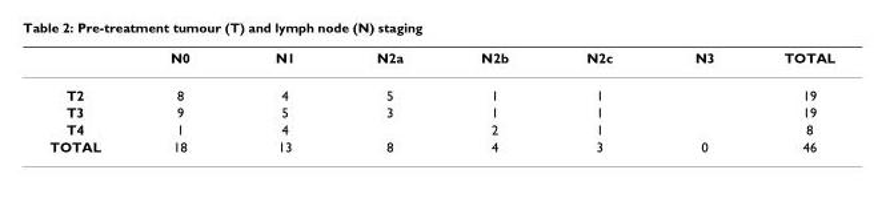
<table><thead><tr><td></td><td>N0</td><td>N1</td><td>N2a</td><td>N2b</td><td>N2c</td><td>N3</td><td>TOTAL</td></tr></thead><tbody><tr><td>T2</td><td>8</td><td>4</td><td>5</td><td>1</td><td>1</td><td></td><td>19</td></tr><tr><td>T3</td><td>9</td><td>5</td><td>3</td><td>1</td><td>1</td><td></td><td>19</td></tr><tr><td>T4</td><td>1</td><td>4</td><td></td><td>2</td><td>1</td><td></td><td>8</td></tr><tr><td>TOTAL</td><td>18</td><td>13</td><td>8</td><td>4</td><td>3</td><td>0</td><td>46</td></tr></tbody></table>